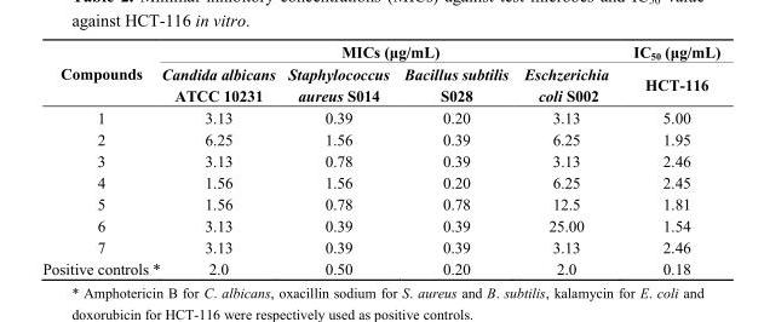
<table><thead><tr><td rowspan="2">Compounds</td><td colspan="4">MICs (μg/mL)</td><td rowspan="2">IC<sub>50</sub> (μg/mL) HCT-116</td></tr><tr><td>Candida albicans ATCC 10231</td><td>Staphylococcus aureus S014</td><td>Bacillus subtilis S028</td><td>Eschzerichia coli S002</td></tr></thead><tbody><tr><td>1</td><td>3.13</td><td>0.39</td><td>0.20</td><td>3.13</td><td>5.00</td></tr><tr><td>2</td><td>6.25</td><td>1.56</td><td>0.39</td><td>6.25</td><td>1.95</td></tr><tr><td>3</td><td>3.13</td><td>0.78</td><td>0.39</td><td>3.13</td><td>2.46</td></tr><tr><td>4</td><td>1.56</td><td>1.56</td><td>0.20</td><td>6.25</td><td>2.45</td></tr><tr><td>5</td><td>1.56</td><td>0.78</td><td>0.78</td><td>12.5</td><td>1.81</td></tr><tr><td>6</td><td>3.13</td><td>0.39</td><td>0.39</td><td>25.00</td><td>1.54</td></tr><tr><td>7</td><td>3.13</td><td>0.39</td><td>0.39</td><td>3.13</td><td>2.46</td></tr><tr><td>Positive controls *</td><td>2.0</td><td>0.50</td><td>0.20</td><td>2.0</td><td>0.18</td></tr></tbody></table>